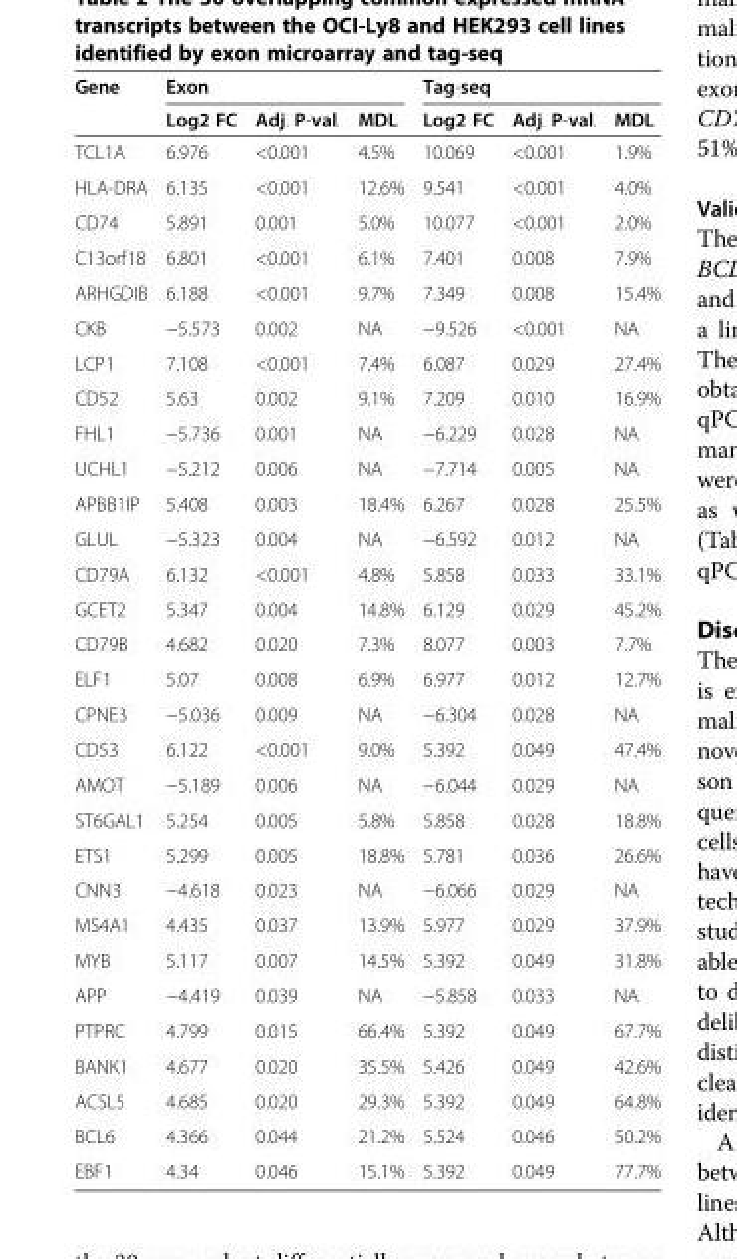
<table><thead><tr><td rowspan="2">Gene</td><td colspan="3">Exon</td><td colspan="3">Tag-seq</td></tr><tr><td>Log2 FC</td><td>Adj. P-val.</td><td>MDL</td><td>Log2 FC</td><td>Adj. P-val.</td><td>MDL</td></tr></thead><tbody><tr><td>TCL1A</td><td>6.976</td><td>&lt;0.001</td><td>4.5%</td><td>10.069</td><td>&lt;0.001</td><td>1.9%</td></tr><tr><td>HLA-DRA</td><td>6.135</td><td>&lt;0.001</td><td>12.6%</td><td>9.541</td><td>&lt;0.001</td><td>4.0%</td></tr><tr><td>CD74</td><td>5.891</td><td>0.001</td><td>5.0%</td><td>10.077</td><td>&lt;0.001</td><td>2.0%</td></tr><tr><td>C13orf18</td><td>6.801</td><td>&lt;0.001</td><td>6.1%</td><td>7.401</td><td>0.008</td><td>7.9%</td></tr><tr><td>ARHGDIB</td><td>6.188</td><td>&lt;0.001</td><td>9.7%</td><td>7.349</td><td>0.008</td><td>15.4%</td></tr><tr><td>CKB</td><td>−5.573</td><td>0.002</td><td>NA</td><td>−9.526</td><td>&lt;0.001</td><td>NA</td></tr><tr><td>LCP1</td><td>7.108</td><td>&lt;0.001</td><td>7.4%</td><td>6.087</td><td>0.029</td><td>27.4%</td></tr><tr><td>CD52</td><td>5.63</td><td>0.002</td><td>9.1%</td><td>7.209</td><td>0.010</td><td>16.9%</td></tr><tr><td>FHL1</td><td>−5.736</td><td>0.001</td><td>NA</td><td>−6.229</td><td>0.028</td><td>NA</td></tr><tr><td>UCHL1</td><td>−5.212</td><td>0.006</td><td>NA</td><td>−7.714</td><td>0.005</td><td>NA</td></tr><tr><td>APBB1IP</td><td>5.408</td><td>0.003</td><td>18.4%</td><td>6.267</td><td>0.028</td><td>25.5%</td></tr><tr><td>GLUL</td><td>−5.323</td><td>0.004</td><td>NA</td><td>−6.592</td><td>0.012</td><td>NA</td></tr><tr><td>CD79A</td><td>6.132</td><td>&lt;0.001</td><td>4.8%</td><td>5.858</td><td>0.033</td><td>33.1%</td></tr><tr><td>GCET2</td><td>5.347</td><td>0.004</td><td>14.8%</td><td>6.129</td><td>0.029</td><td>45.2%</td></tr><tr><td>CD79B</td><td>4.682</td><td>0.020</td><td>7.3%</td><td>8.077</td><td>0.003</td><td>7.7%</td></tr><tr><td>ELF1</td><td>5.07</td><td>0.008</td><td>6.9%</td><td>6.977</td><td>0.012</td><td>12.7%</td></tr><tr><td>CPNE3</td><td>−5.036</td><td>0.009</td><td>NA</td><td>−6.304</td><td>0.028</td><td>NA</td></tr><tr><td>CD53</td><td>6.122</td><td>&lt;0.001</td><td>9.0%</td><td>5.392</td><td>0.049</td><td>47.4%</td></tr><tr><td>AMOT</td><td>−5.189</td><td>0.006</td><td>NA</td><td>−6.044</td><td>0.029</td><td>NA</td></tr><tr><td>ST6GAL1</td><td>5.254</td><td>0.005</td><td>5.8%</td><td>5.858</td><td>0.028</td><td>18.8%</td></tr><tr><td>ETS1</td><td>5.299</td><td>0.005</td><td>18.8%</td><td>5.781</td><td>0.036</td><td>26.6%</td></tr><tr><td>CNN3</td><td>−4.618</td><td>0.023</td><td>NA</td><td>−6.066</td><td>0.029</td><td>NA</td></tr><tr><td>MS4A1</td><td>4.435</td><td>0.037</td><td>13.9%</td><td>5.977</td><td>0.029</td><td>37.9%</td></tr><tr><td>MYB</td><td>5.117</td><td>0.007</td><td>14.5%</td><td>5.392</td><td>0.049</td><td>31.8%</td></tr><tr><td>APP</td><td>−4.419</td><td>0.039</td><td>NA</td><td>−5.858</td><td>0.033</td><td>NA</td></tr><tr><td>PTPRC</td><td>4.799</td><td>0.015</td><td>66.4%</td><td>5.392</td><td>0.049</td><td>67.7%</td></tr><tr><td>BANK1</td><td>4.677</td><td>0.020</td><td>35.5%</td><td>5.426</td><td>0.049</td><td>42.6%</td></tr><tr><td>ACSL5</td><td>4.685</td><td>0.020</td><td>29.3%</td><td>5.392</td><td>0.049</td><td>64.8%</td></tr><tr><td>BCL6</td><td>4.366</td><td>0.044</td><td>21.2%</td><td>5.524</td><td>0.046</td><td>50.2%</td></tr><tr><td>EBF1</td><td>4.34</td><td>0.046</td><td>15.1%</td><td>5.392</td><td>0.049</td><td>77.7%</td></tr></tbody></table>